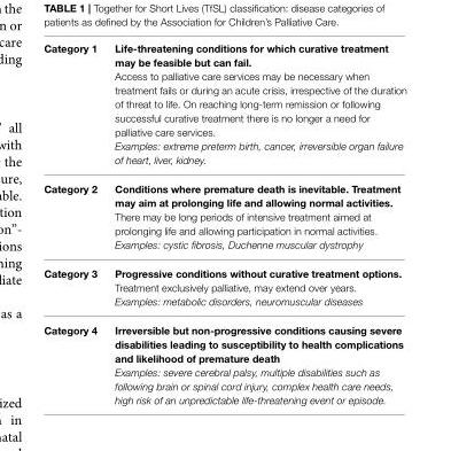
<table><tbody><tr><td>Category 1</td><td>Life-threatening conditions for which curative treatment may be feasible but can fail. Access to palliative care services may be necessary when treatment fails or during an acute crisis, irrespective of the duration of threat to life. On reaching long-term remission or following successful curative treatment there is no longer a need for palliative care services. Examples: extreme preterm birth, cancer, irreversible organ failure of heart, liver, kidney.</td></tr><tr><td>Category 2</td><td>Conditions where premature death is inevitable. Treatment may aim at prolonging life and allowing normal activities. There may be long periods of intensive treatment aimed at prolonging life and allowing participation in normal activities. Examples: cystic fibrosis, Duchenne muscular dystrophy</td></tr><tr><td>Category 3</td><td>Progressive conditions without curative treatment options. Treatment exclusively palliative, may extend over years. Examples: metabolic disorders, neuromuscular diseases</td></tr><tr><td>Category 4</td><td>Irreversible but non-progressive conditions causing severe disabilities leading to susceptibility to health complications and likelihood of premature death Examples: severe cerebral palsy, multiple disabilities such as following brain or spinal cord injury, complex health care needs, high risk of an unpredictable life-threatening event or episode.</td></tr></tbody></table>